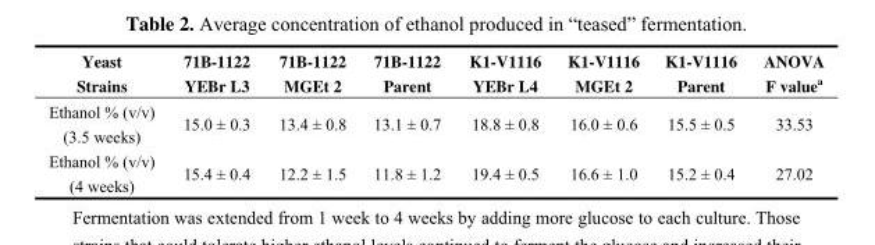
<table><thead><tr><td>Yeast Strains</td><td>71B-1122 YEBr L3</td><td>71B-1122 MGEt 2</td><td>71B-1122 Parent</td><td>K1-V1116 YEBr L4</td><td>K1-V1116 MGEt 2</td><td>K1-V1116 Parent</td><td>ANOVA F value<sup>a</sup></td></tr></thead><tbody><tr><td>Ethanol % (v/v) (3.5 weeks)</td><td>15.0 ± 0.3</td><td>13.4 ± 0.8</td><td>13.1 ± 0.7</td><td>18.8 ± 0.8</td><td>16.0 ± 0.6</td><td>15.5 ± 0.5</td><td>33.53</td></tr><tr><td>Ethanol % (v/v) (4 weeks)</td><td>15.4 ± 0.4</td><td>12.2 ± 1.5</td><td>11.8 ± 1.2</td><td>19.4 ± 0.5</td><td>16.6 ± 1.0</td><td>15.2 ± 0.4</td><td>27.02</td></tr></tbody></table>